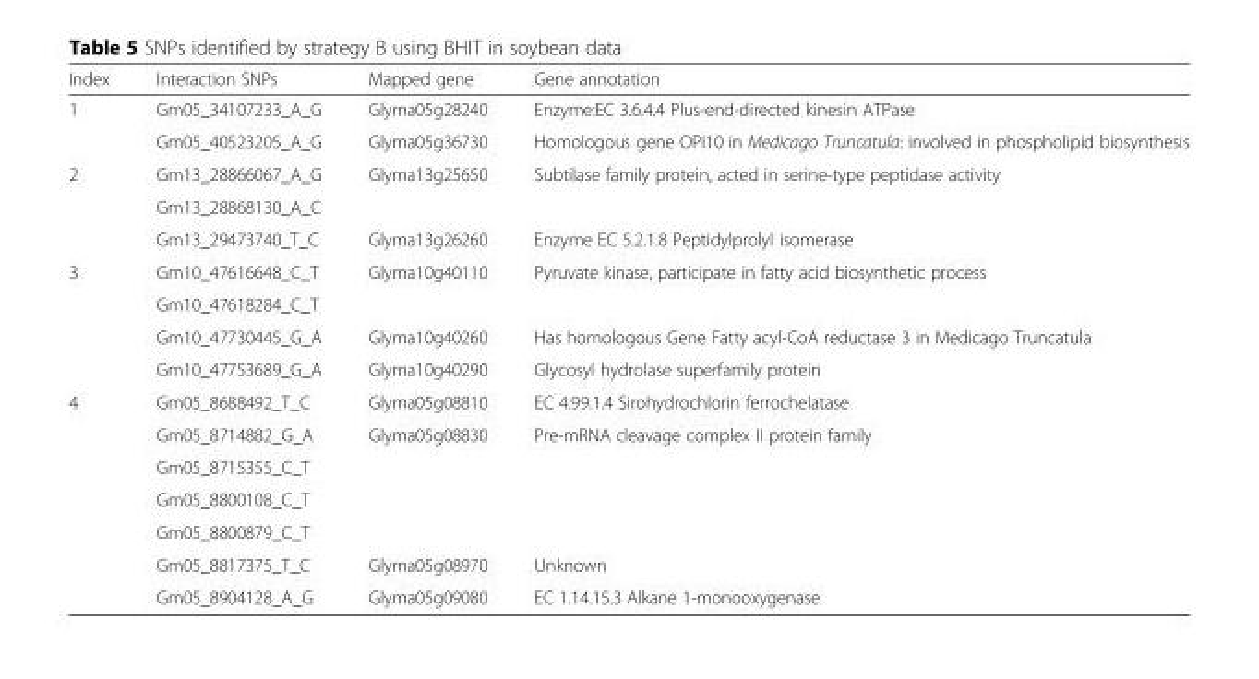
<table><thead><tr><td>Index</td><td>Interaction SNPs</td><td>Mapped gene</td><td>Gene annotation</td></tr></thead><tbody><tr><td rowspan="2">1</td><td>Gm05_34107233_A_G</td><td>Glyma05g28240</td><td>Enzyme:EC 3.6.4.4 Plus-end-directed kinesin ATPase</td></tr><tr><td>Gm05_40523205_A_G</td><td>Glyma05g36730</td><td>Homologous gene OPI10 in Medicago Truncatula: involved in phospholipid biosynthesis</td></tr><tr><td rowspan="3">2</td><td>Gm13_28866067_A_G</td><td rowspan="2">Glyma13g25650</td><td rowspan="2">Subtilase family protein, acted in serine-type peptidase activity</td></tr><tr><td>Gm13_28868130_A_C</td></tr><tr><td>Gm13_29473740_T_C</td><td>Glyma13g26260</td><td>Enzyme EC 5.2.1.8 Peptidylprolyl isomerase</td></tr><tr><td rowspan="4">3</td><td>Gm10_47616648_C_T</td><td rowspan="2">Glyma10g40110</td><td rowspan="2">Pyruvate kinase, participate in fatty acid biosynthetic process</td></tr><tr><td>Gm10_47618284_C_T</td></tr><tr><td>Gm10_47730445_G_A</td><td>Glyma10g40260</td><td>Has homologous Gene Fatty acyl-CoA reductase 3 in Medicago Truncatula</td></tr><tr><td>Gm10_47753689_G_A</td><td>Glyma10g40290</td><td>Glycosyl hydrolase superfamily protein</td></tr><tr><td rowspan="7">4</td><td>Gm05_8688492_T_C</td><td>Glyma05g08810</td><td>EC 4.99.1.4 Sirohydrochlorin ferrochelatase</td></tr><tr><td>Gm05_8714882_G_A</td><td rowspan="4">Glyma05g08830</td><td rowspan="4">Pre-mRNA cleavage complex II protein family</td></tr><tr><td>Gm05_8715355_C_T</td></tr><tr><td>Gm05_8800108_C_T</td></tr><tr><td>Gm05_8800879_C_T</td></tr><tr><td>Gm05_8817375_T_C</td><td>Glyma05g08970</td><td>Unknown</td></tr><tr><td>Gm05_8904128_A_G</td><td>Glyma05g09080</td><td>EC 1.14.15.3 Alkane 1-monooxygenase</td></tr></tbody></table>